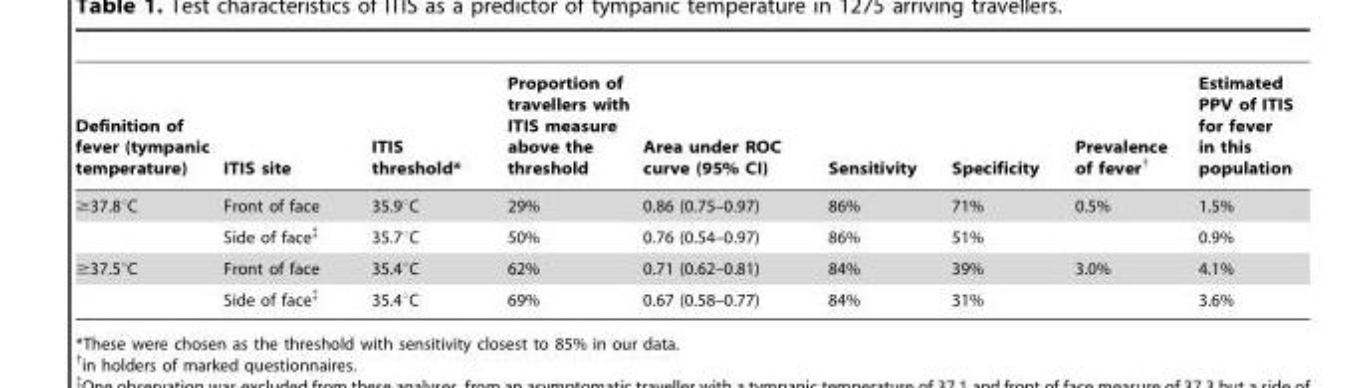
<table><thead><tr><td>Definition of fever (tympanic temperature)</td><td>ITIS site</td><td>ITIS threshold*</td><td>Proportion of travellers with ITIS measure above the threshold</td><td>Area under ROC curve (95% CI)</td><td>Sensitivity</td><td>Specificity</td><td>Prevalence of fever†</td><td>Estimated PPV of ITIS for fever in this population</td></tr></thead><tbody><tr><td rowspan="2">≥37.8°C</td><td>Front of face</td><td>35.9°C</td><td>29%</td><td>0.86 (0.75–0.97)</td><td>86%</td><td>71%</td><td>0.5%</td><td>1.5%</td></tr><tr><td>Side of face‡</td><td>35.7°C</td><td>50%</td><td>0.76 (0.54–0.97)</td><td>86%</td><td>51%</td><td></td><td>0.9%</td></tr><tr><td rowspan="2">≥37.5°C</td><td>Front of face</td><td>35.4°C</td><td>62%</td><td>0.71 (0.62–0.81)</td><td>84%</td><td>39%</td><td>3.0%</td><td>4.1%</td></tr><tr><td>Side of face‡</td><td>35.4°C</td><td>69%</td><td>0.67 (0.58–0.77)</td><td>84%</td><td>31%</td><td></td><td>3.6%</td></tr></tbody></table>